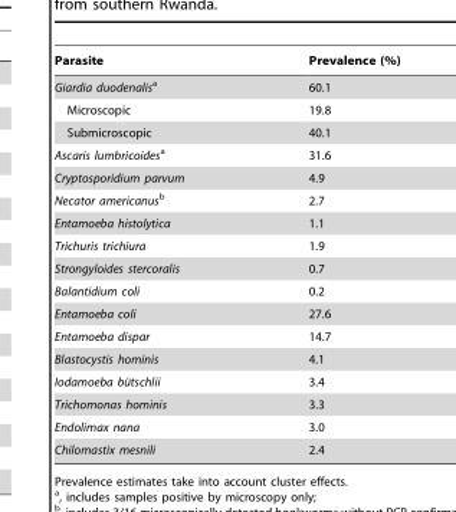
<table><thead><tr><td>Parasite</td><td>Prevalence (%)</td></tr></thead><tbody><tr><td>Giardia duodenalisa</td><td>60.1</td></tr><tr><td>Microscopic</td><td>19.8</td></tr><tr><td>Submicroscopic</td><td>40.1</td></tr><tr><td>Ascaris lumbricoidesa</td><td>31.6</td></tr><tr><td>Cryptosporidium parvum</td><td>4.9</td></tr><tr><td>Necator americanusb</td><td>2.7</td></tr><tr><td>Entamoeba histolytica</td><td>1.1</td></tr><tr><td>Trichuris trichiura</td><td>1.9</td></tr><tr><td>Strongyloides stercoralis</td><td>0.7</td></tr><tr><td>Balantidium coli</td><td>0.2</td></tr><tr><td>Entamoeba coli</td><td>27.6</td></tr><tr><td>Entamoeba dispar</td><td>14.7</td></tr><tr><td>Blastocystis hominis</td><td>4.1</td></tr><tr><td>Iodamoeba bu¨tschlii</td><td>3.4</td></tr><tr><td>Trichomonas hominis</td><td>3.3</td></tr><tr><td>Endolimax nana</td><td>3.0</td></tr><tr><td>Chilomastix mesnili</td><td>2.4</td></tr></tbody></table>